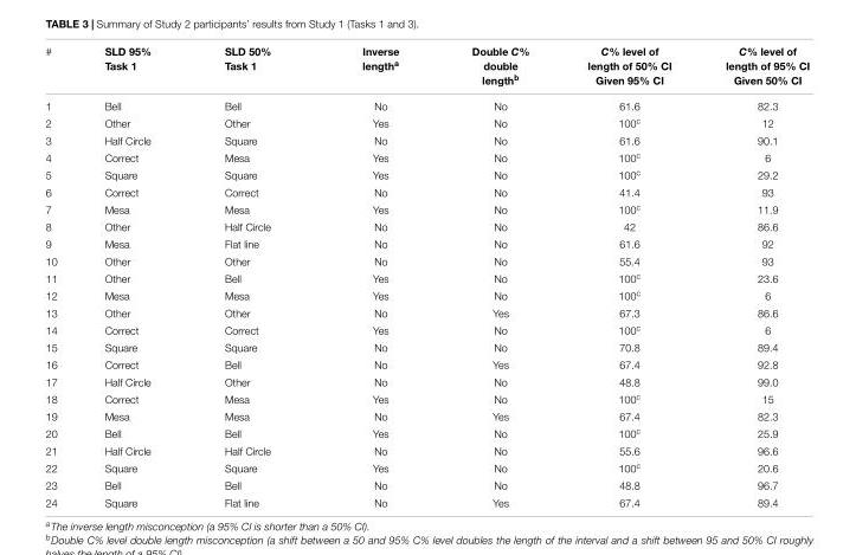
<table><thead><tr><td>#</td><td>SLD 95% Task 1</td><td>SLD 50% Task 1</td><td>Inverse length<sup>a</sup></td><td>Double C% double length<sup>b</sup></td><td>C% level of length of 50% CI Given 95% CI</td><td>C% level of length of 95% CI Given 50% CI</td></tr></thead><tbody><tr><td>1</td><td>Bell</td><td>Bell</td><td>No</td><td>No</td><td>61.6</td><td>82.3</td></tr><tr><td>2</td><td>Other</td><td>Other</td><td>Yes</td><td>No</td><td>100<sup>c</sup></td><td>12</td></tr><tr><td>3</td><td>Half Circle</td><td>Square</td><td>No</td><td>No</td><td>61.6</td><td>90.1</td></tr><tr><td>4</td><td>Correct</td><td>Mesa</td><td>Yes</td><td>No</td><td>100<sup>c</sup></td><td>6</td></tr><tr><td>5</td><td>Square</td><td>Square</td><td>Yes</td><td>No</td><td>100<sup>c</sup></td><td>29.2</td></tr><tr><td>6</td><td>Correct</td><td>Correct</td><td>No</td><td>No</td><td>41.4</td><td>93</td></tr><tr><td>7</td><td>Mesa</td><td>Mesa</td><td>Yes</td><td>No</td><td>100<sup>c</sup></td><td>11.9</td></tr><tr><td>8</td><td>Other</td><td>Half Circle</td><td>No</td><td>No</td><td>42</td><td>86.6</td></tr><tr><td>9</td><td>Mesa</td><td>Flat line</td><td>No</td><td>No</td><td>61.6</td><td>92</td></tr><tr><td>10</td><td>Other</td><td>Other</td><td>No</td><td>No</td><td>55.4</td><td>93</td></tr><tr><td>11</td><td>Other</td><td>Bell</td><td>Yes</td><td>No</td><td>100<sup>c</sup></td><td>23.6</td></tr><tr><td>12</td><td>Mesa</td><td>Mesa</td><td>Yes</td><td>No</td><td>100<sup>c</sup></td><td>6</td></tr><tr><td>13</td><td>Other</td><td>Other</td><td>No</td><td>Yes</td><td>67.3</td><td>86.6</td></tr><tr><td>14</td><td>Correct</td><td>Correct</td><td>Yes</td><td>No</td><td>100<sup>c</sup></td><td>6</td></tr><tr><td>15</td><td>Square</td><td>Square</td><td>No</td><td>No</td><td>70.8</td><td>89.4</td></tr><tr><td>16</td><td>Correct</td><td>Bell</td><td>No</td><td>Yes</td><td>67.4</td><td>92.8</td></tr><tr><td>17</td><td>Half Circle</td><td>Other</td><td>No</td><td>No</td><td>48.8</td><td>99.0</td></tr><tr><td>18</td><td>Correct</td><td>Mesa</td><td>Yes</td><td>No</td><td>100<sup>c</sup></td><td>15</td></tr><tr><td>19</td><td>Mesa</td><td>Mesa</td><td>No</td><td>Yes</td><td>67.4</td><td>82.3</td></tr><tr><td>20</td><td>Bell</td><td>Bell</td><td>Yes</td><td>No</td><td>100<sup>c</sup></td><td>25.9</td></tr><tr><td>21</td><td>Half Circle</td><td>Half Circle</td><td>No</td><td>No</td><td>55.6</td><td>96.6</td></tr><tr><td>22</td><td>Square</td><td>Square</td><td>Yes</td><td>No</td><td>100<sup>c</sup></td><td>20.6</td></tr><tr><td>23</td><td>Bell</td><td>Bell</td><td>No</td><td>No</td><td>48.8</td><td>96.7</td></tr><tr><td>24</td><td>Square</td><td>Flat line</td><td>No</td><td>Yes</td><td>67.4</td><td>89.4</td></tr></tbody></table>